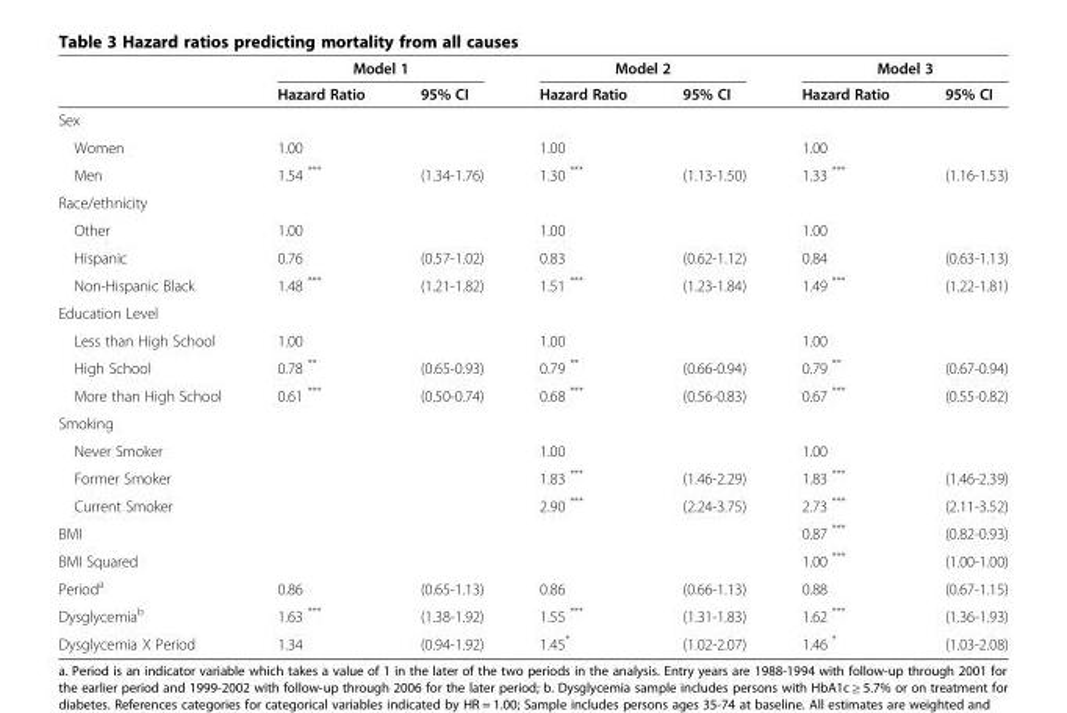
<table><thead><tr><td rowspan="2"></td><td colspan="2">Model 1</td><td colspan="2">Model 2</td><td colspan="2">Model 3</td></tr><tr><td>Hazard Ratio</td><td>95% CI</td><td>Hazard Ratio</td><td>95% CI</td><td>Hazard Ratio</td><td>95% CI</td></tr></thead><tbody><tr><td colspan="7">Sex</td></tr><tr><td>Women</td><td>1.00</td><td></td><td>1.00</td><td></td><td>1.00</td><td></td></tr><tr><td>Men</td><td>1.54 ***</td><td>(1.34-1.76)</td><td>1.30 ***</td><td>(1.13-1.50)</td><td>1.33 ***</td><td>(1.16-1.53)</td></tr><tr><td colspan="7">Race/ethnicity</td></tr><tr><td>Other</td><td>1.00</td><td></td><td>1.00</td><td></td><td>1.00</td><td></td></tr><tr><td>Hispanic</td><td>0.76</td><td>(0.57-1.02)</td><td>0.83</td><td>(0.62-1.12)</td><td>0.84</td><td>(0.63-1.13)</td></tr><tr><td>Non-Hispanic Black</td><td>1.48 ***</td><td>(1.21-1.82)</td><td>1.51 ***</td><td>(1.23-1.84)</td><td>1.49 ***</td><td>(1.22-1.81)</td></tr><tr><td colspan="7">Education Level</td></tr><tr><td>Less than High School</td><td>1.00</td><td></td><td>1.00</td><td></td><td>1.00</td><td></td></tr><tr><td>High School</td><td>0.78 **</td><td>(0.65-0.93)</td><td>0.79 **</td><td>(0.66-0.94)</td><td>0.79 **</td><td>(0.67-0.94)</td></tr><tr><td>More than High School</td><td>0.61 ***</td><td>(0.50-0.74)</td><td>0.68 ***</td><td>(0.56-0.83)</td><td>0.67 ***</td><td>(0.55-0.82)</td></tr><tr><td colspan="7">Smoking</td></tr><tr><td>Never Smoker</td><td></td><td></td><td>1.00</td><td></td><td>1.00</td><td></td></tr><tr><td>Former Smoker</td><td></td><td></td><td>1.83 ***</td><td>(1.46-2.29)</td><td>1.83 ***</td><td>(1.46-2.39)</td></tr><tr><td>Current Smoker</td><td></td><td></td><td>2.90 ***</td><td>(2.24-3.75)</td><td>2.73 ***</td><td>(2.11-3.52)</td></tr><tr><td>BMI</td><td></td><td></td><td></td><td></td><td>0.87 ***</td><td>(0.82-0.93)</td></tr><tr><td>BMI Squared</td><td></td><td></td><td></td><td></td><td>1.00 ***</td><td>(1.00-1.00)</td></tr><tr><td>Period<sup>a</sup></td><td>0.86</td><td>(0.65-1.13)</td><td>0.86</td><td>(0.66-1.13)</td><td>0.88</td><td>(0.67-1.15)</td></tr><tr><td>Dysglycemia<sup>b</sup></td><td>1.63 ***</td><td>(1.38-1.92)</td><td>1.55 ***</td><td>(1.31-1.83)</td><td>1.62 ***</td><td>(1.36-1.93)</td></tr><tr><td>Dysglycemia X Period</td><td>1.34</td><td>(0.94-1.92)</td><td>1.45*</td><td>(1.02-2.07)</td><td>1.46 *</td><td>(1.03-2.08)</td></tr></tbody></table>